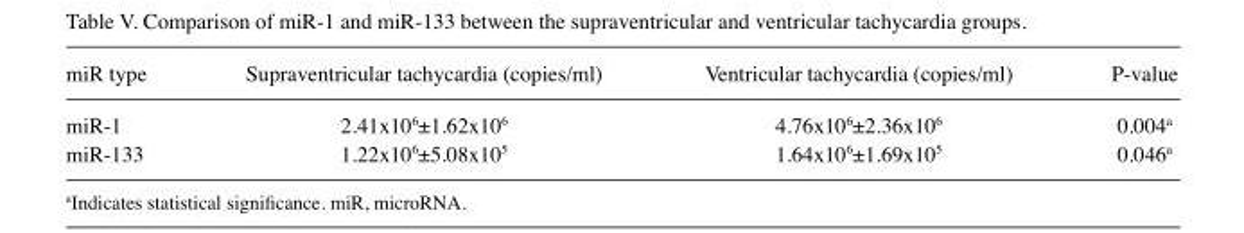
<table><thead><tr><td>miR type</td><td>Supraventricular tachycardia (copies/ml)</td><td>Ventricular tachycardia (copies/ml)</td><td>P-value</td></tr></thead><tbody><tr><td>miR-1</td><td>2.41x106±1.62x106</td><td>4.76x106±2.36x106</td><td>0.004<sup>a</sup></td></tr><tr><td>miR-133</td><td>1.22x106±5.08x105</td><td>1.64x106±1.69x105</td><td>0.046<sup>a</sup></td></tr></tbody></table>